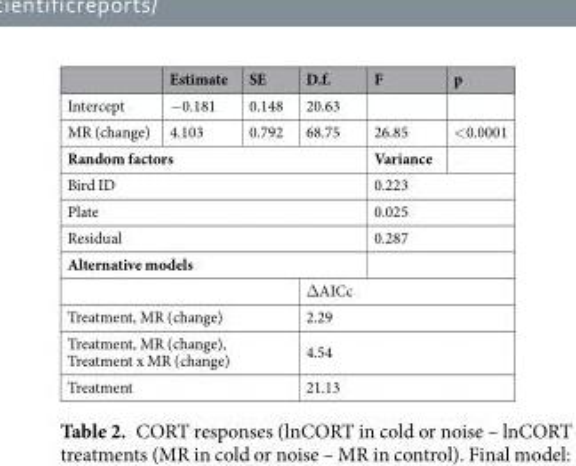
<table><thead><tr><td></td><td>Estimate</td><td>SE</td><td>D.f.</td><td>F</td><td>p</td></tr></thead><tbody><tr><td>Intercept</td><td>−0.181</td><td>0.148</td><td>20.63</td><td></td><td></td></tr><tr><td>MR (change)</td><td>4.103</td><td>0.792</td><td>68.75</td><td>26.85</td><td>&lt;0.0001</td></tr><tr><td colspan="4">Random factors</td><td>Variance</td><td></td></tr><tr><td colspan="4">Bird ID</td><td colspan="2">0.223</td></tr><tr><td colspan="4">Plate</td><td colspan="2">0.025</td></tr><tr><td colspan="4">Residual</td><td colspan="2">0.287</td></tr><tr><td colspan="6">Alternative models</td></tr><tr><td colspan="3"></td><td colspan="3">ΔAICc</td></tr><tr><td colspan="3">Treatment, MR (change)</td><td colspan="3">2.29</td></tr><tr><td colspan="3">Treatment, MR (change), Treatment x MR (change)</td><td colspan="3">4.54</td></tr><tr><td colspan="3">Treatment</td><td colspan="3">21.13</td></tr></tbody></table>